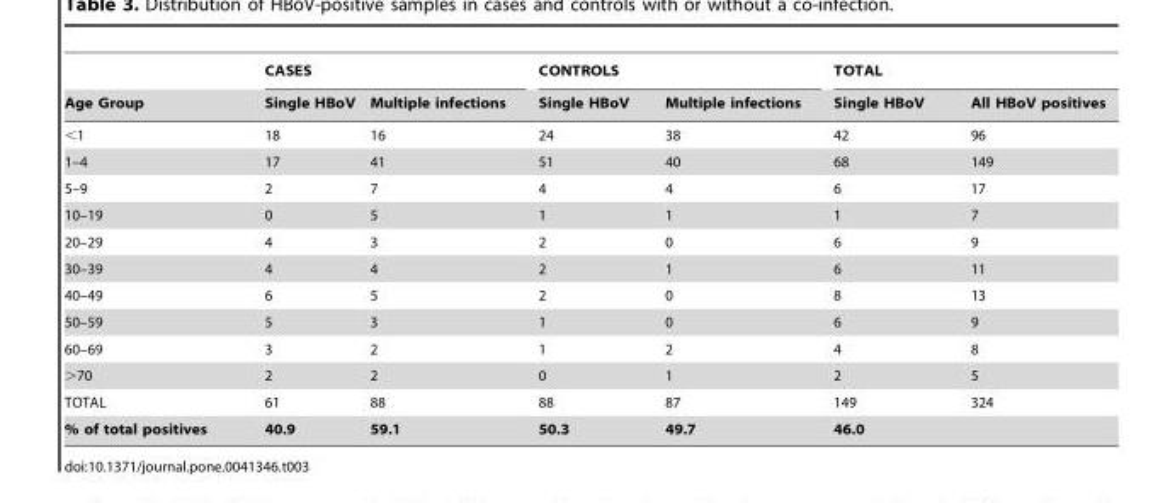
<table><thead><tr><td rowspan="2">Age Group</td><td colspan="2">CASES</td><td colspan="2">CONTROLS</td><td colspan="2">TOTAL</td></tr><tr><td>Single HBoV</td><td>Multiple infections</td><td>Single HBoV</td><td>Multiple infections</td><td>Single HBoV</td><td>All HBoV positives</td></tr></thead><tbody><tr><td>&lt;1</td><td>18</td><td>16</td><td>24</td><td>38</td><td>42</td><td>96</td></tr><tr><td>1–4</td><td>17</td><td>41</td><td>51</td><td>40</td><td>68</td><td>149</td></tr><tr><td>5–9</td><td>2</td><td>7</td><td>4</td><td>4</td><td>6</td><td>17</td></tr><tr><td>10–19</td><td>0</td><td>5</td><td>1</td><td>1</td><td>1</td><td>7</td></tr><tr><td>20–29</td><td>4</td><td>3</td><td>2</td><td>0</td><td>6</td><td>9</td></tr><tr><td>30–39</td><td>4</td><td>4</td><td>2</td><td>1</td><td>6</td><td>11</td></tr><tr><td>40–49</td><td>6</td><td>5</td><td>2</td><td>0</td><td>8</td><td>13</td></tr><tr><td>50–59</td><td>5</td><td>3</td><td>1</td><td>0</td><td>6</td><td>9</td></tr><tr><td>60–69</td><td>3</td><td>2</td><td>1</td><td>2</td><td>4</td><td>8</td></tr><tr><td>&gt;70</td><td>2</td><td>2</td><td>0</td><td>1</td><td>2</td><td>5</td></tr><tr><td>TOTAL</td><td>61</td><td>88</td><td>88</td><td>87</td><td>149</td><td>324</td></tr><tr><td>% of total positives</td><td>40.9</td><td>59.1</td><td>50.3</td><td>49.7</td><td>46.0</td><td></td></tr></tbody></table>